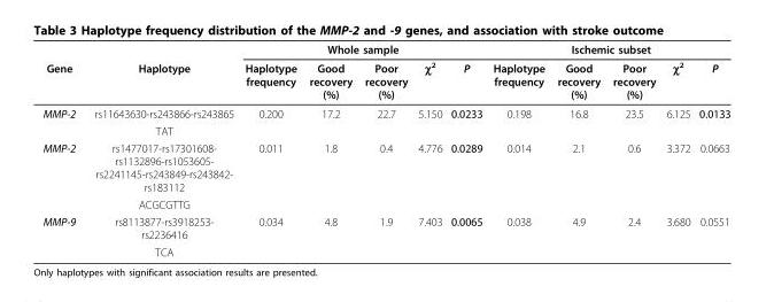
<table><thead><tr><td rowspan="2">Gene</td><td rowspan="2">Haplotype</td><td colspan="5">Whole sample</td><td colspan="5">Ischemic subset</td></tr><tr><td>Haplotype frequency</td><td>Good recovery (%)</td><td>Poor recovery (%)</td><td>χ<sup>2</sup></td><td>P</td><td>Haplotype frequency</td><td>Good recovery (%)</td><td>Poor recovery (%)</td><td>χ<sup>2</sup></td><td>P</td></tr></thead><tbody><tr><td rowspan="2">MMP-2</td><td>rs11643630-rs243866-rs243865</td><td>0.200</td><td>17.2</td><td>22.7</td><td>5.150</td><td>0.0233</td><td>0.198</td><td>16.8</td><td>23.5</td><td>6.125</td><td>0.0133</td></tr><tr><td>TAT</td><td></td><td></td><td></td><td></td><td></td><td></td><td></td><td></td><td></td><td></td></tr><tr><td rowspan="2">MMP-2</td><td>rs1477017-rs17301608- rs1132896-rs1053605- rs2241145-rs243849-rs243842- rs183112</td><td>0.011</td><td>1.8</td><td>0.4</td><td>4.776</td><td>0.0289</td><td>0.014</td><td>2.1</td><td>0.6</td><td>3.372</td><td>0.0663</td></tr><tr><td>ACGCGTTG</td><td></td><td></td><td></td><td></td><td></td><td></td><td></td><td></td><td></td><td></td></tr><tr><td rowspan="2">MMP-9</td><td>rs8113877-rs3918253- rs2236416</td><td>0.034</td><td>4.8</td><td>1.9</td><td>7.403</td><td>0.0065</td><td>0.038</td><td>4.9</td><td>2.4</td><td>3.680</td><td>0.0551</td></tr><tr><td>TCA</td><td></td><td></td><td></td><td></td><td></td><td></td><td></td><td></td><td></td><td></td></tr></tbody></table>